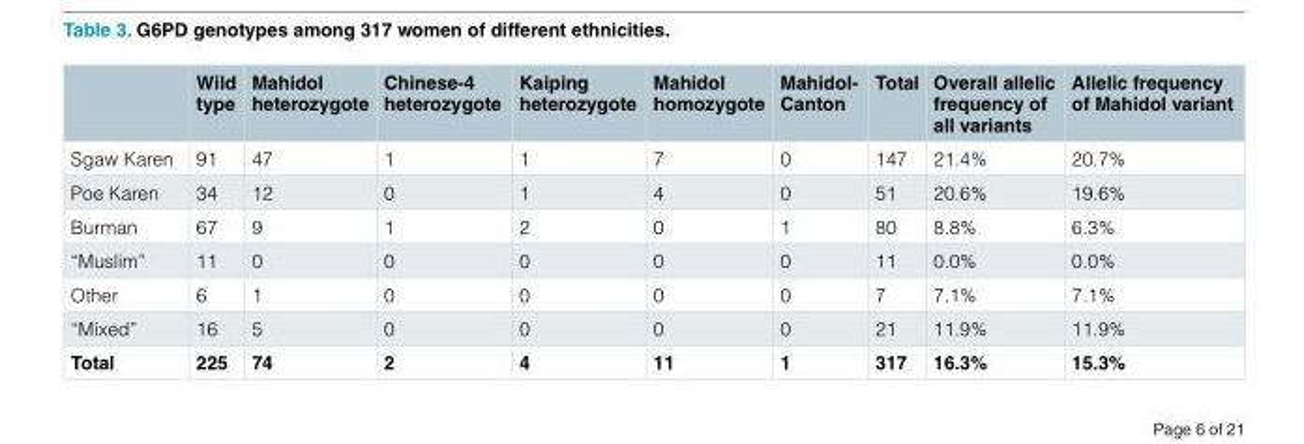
<table><thead><tr><td></td><td>Wild type</td><td>Mahidol heterozygote</td><td>Chinese-4 heterozygote</td><td>Kaiping heterozygote</td><td>Mahidol homozygote</td><td>Mahidol- Canton</td><td>Total</td><td>Overall allelic frequency of all variants</td><td>Allelic frequency of Mahidol variant</td></tr></thead><tbody><tr><td>Sgaw Karen</td><td>91</td><td>47</td><td>1</td><td>1</td><td>7</td><td>0</td><td>147</td><td>21.4%</td><td>20.7%</td></tr><tr><td>Poe Karen</td><td>34</td><td>12</td><td>0</td><td>1</td><td>4</td><td>0</td><td>51</td><td>20.6%</td><td>19.6%</td></tr><tr><td>Burman</td><td>67</td><td>9</td><td>1</td><td>2</td><td>0</td><td>1</td><td>80</td><td>8.8%</td><td>6.3%</td></tr><tr><td>“Muslim”</td><td>11</td><td>0</td><td>0</td><td>0</td><td>0</td><td>0</td><td>11</td><td>0.0%</td><td>0.0%</td></tr><tr><td>Other</td><td>6</td><td>1</td><td>0</td><td>0</td><td>0</td><td>0</td><td>7</td><td>7.1%</td><td>7.1%</td></tr><tr><td>“Mixed”</td><td>16</td><td>5</td><td>0</td><td>0</td><td>0</td><td>0</td><td>21</td><td>11.9%</td><td>11.9%</td></tr><tr><td>Total</td><td>225</td><td>74</td><td>2</td><td>4</td><td>11</td><td>1</td><td>317</td><td>16.3%</td><td>15.3%</td></tr></tbody></table>